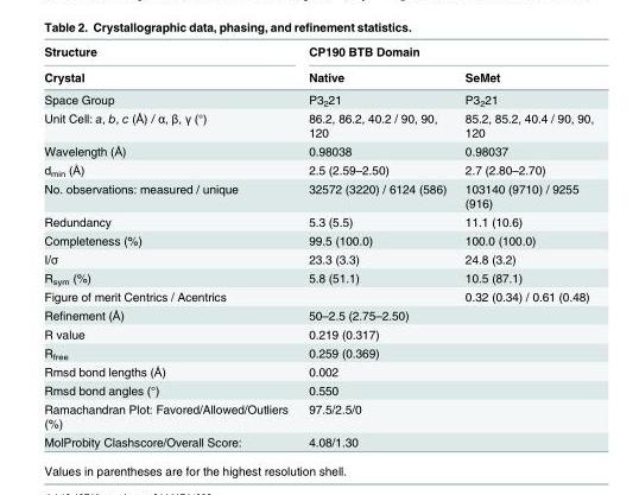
<table><thead><tr><td rowspan="2">Structure Crystal</td><td colspan="2">CP190 BTB Domain</td></tr><tr><td>Native</td><td>SeMet</td></tr></thead><tbody><tr><td>Space Group</td><td>P3<sub>2</sub>21</td><td>P3<sub>2</sub>21</td></tr><tr><td>Unit Cell: a, b, c (Å) / α, β, γ (°)</td><td>86.2, 86.2, 40.2 / 90, 90, 120</td><td>85.2, 85.2, 40.4 / 90, 90, 120</td></tr><tr><td>Wavelength (Å)</td><td>0.98038</td><td>0.98037</td></tr><tr><td>d<sub>min</sub> (Å)</td><td>2.5 (2.59–2.50)</td><td>2.7 (2.80–2.70)</td></tr><tr><td>No. observations: measured / unique</td><td>32572 (3220) / 6124 (586)</td><td>103140 (9710) / 9255 (916)</td></tr><tr><td>Redundancy</td><td>5.3 (5.5)</td><td>11.1 (10.6)</td></tr><tr><td>Completeness (%)</td><td>99.5 (100.0)</td><td>100.0 (100.0)</td></tr><tr><td>I/σ</td><td>23.3 (3.3)</td><td>24.8 (3.2)</td></tr><tr><td>R<sub>sym</sub> (%)</td><td>5.8 (51.1)</td><td>10.5 (87.1)</td></tr><tr><td>Figure of merit Centrics / Acentrics</td><td></td><td>0.32 (0.34) / 0.61 (0.48)</td></tr><tr><td>Refinement (Å)</td><td>50–2.5 (2.75–2.50)</td><td></td></tr><tr><td>R value</td><td>0.219 (0.317)</td><td></td></tr><tr><td>R<sub>free</sub></td><td>0.259 (0.369)</td><td></td></tr><tr><td>Rmsd bond lengths (Å)</td><td>0.002</td><td></td></tr><tr><td>Rmsd bond angles (°)</td><td>0.550</td><td></td></tr><tr><td>Ramachandran Plot: Favored/Allowed/Outliers (%)</td><td>97.5/2.5/0</td><td></td></tr><tr><td>MolProbity Clashscore/Overall Score:</td><td>4.08/1.30</td><td></td></tr></tbody></table>